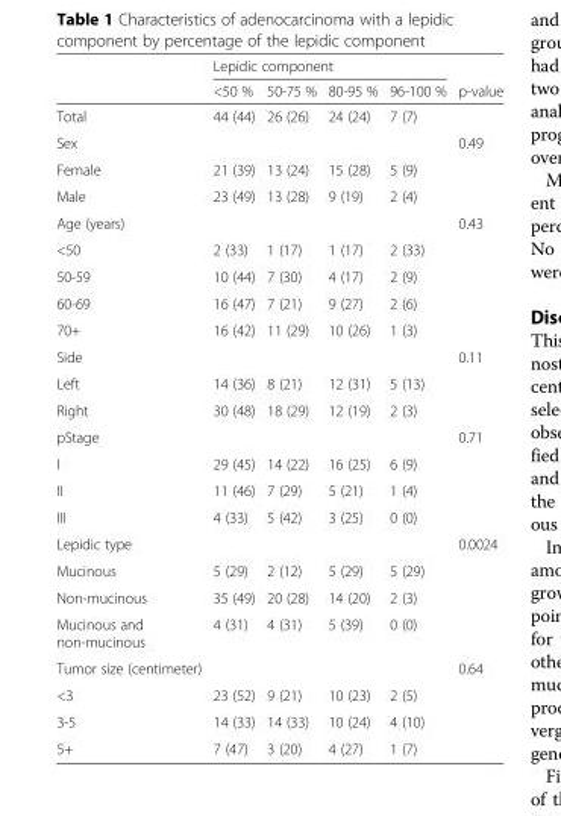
<table><thead><tr><td rowspan="2"></td><td colspan="4">Lepidic component</td><td rowspan="2">p-value</td></tr><tr><td>&lt;50 %</td><td>50-75 %</td><td>80-95 %</td><td>96-100 %</td></tr></thead><tbody><tr><td>Total</td><td>44 (44)</td><td>26 (26)</td><td>24 (24)</td><td>7 (7)</td><td></td></tr><tr><td>Sex</td><td></td><td></td><td></td><td></td><td>0.49</td></tr><tr><td>Female</td><td>21 (39)</td><td>13 (24)</td><td>15 (28)</td><td>5 (9)</td><td></td></tr><tr><td>Male</td><td>23 (49)</td><td>13 (28)</td><td>9 (19)</td><td>2 (4)</td><td></td></tr><tr><td>Age (years)</td><td></td><td></td><td></td><td></td><td>0.43</td></tr><tr><td>&lt;50</td><td>2 (33)</td><td>1 (17)</td><td>1 (17)</td><td>2 (33)</td><td></td></tr><tr><td>50-59</td><td>10 (44)</td><td>7 (30)</td><td>4 (17)</td><td>2 (9)</td><td></td></tr><tr><td>60-69</td><td>16 (47)</td><td>7 (21)</td><td>9 (27)</td><td>2 (6)</td><td></td></tr><tr><td>70+</td><td>16 (42)</td><td>11 (29)</td><td>10 (26)</td><td>1 (3)</td><td></td></tr><tr><td>Side</td><td></td><td></td><td></td><td></td><td>0.11</td></tr><tr><td>Left</td><td>14 (36)</td><td>8 (21)</td><td>12 (31)</td><td>5 (13)</td><td></td></tr><tr><td>Right</td><td>30 (48)</td><td>18 (29)</td><td>12 (19)</td><td>2 (3)</td><td></td></tr><tr><td>pStage</td><td></td><td></td><td></td><td></td><td>0.71</td></tr><tr><td>I</td><td>29 (45)</td><td>14 (22)</td><td>16 (25)</td><td>6 (9)</td><td></td></tr><tr><td>II</td><td>11 (46)</td><td>7 (29)</td><td>5 (21)</td><td>1 (4)</td><td></td></tr><tr><td>III</td><td>4 (33)</td><td>5 (42)</td><td>3 (25)</td><td>0 (0)</td><td></td></tr><tr><td>Lepidic type</td><td></td><td></td><td></td><td></td><td>0.0024</td></tr><tr><td>Mucinous</td><td>5 (29)</td><td>2 (12)</td><td>5 (29)</td><td>5 (29)</td><td></td></tr><tr><td>Non-mucinous</td><td>35 (49)</td><td>20 (28)</td><td>14 (20)</td><td>2 (3)</td><td></td></tr><tr><td>Mucinous and non-mucinous</td><td>4 (31)</td><td>4 (31)</td><td>5 (39)</td><td>0 (0)</td><td></td></tr><tr><td>Tumor size (centimeter)</td><td></td><td></td><td></td><td></td><td>0.64</td></tr><tr><td>&lt;3</td><td>23 (52)</td><td>9 (21)</td><td>10 (23)</td><td>2 (5)</td><td></td></tr><tr><td>3-5</td><td>14 (33)</td><td>14 (33)</td><td>10 (24)</td><td>4 (10)</td><td></td></tr><tr><td>5+</td><td>7 (47)</td><td>3 (20)</td><td>4 (27)</td><td>1 (7)</td><td></td></tr></tbody></table>